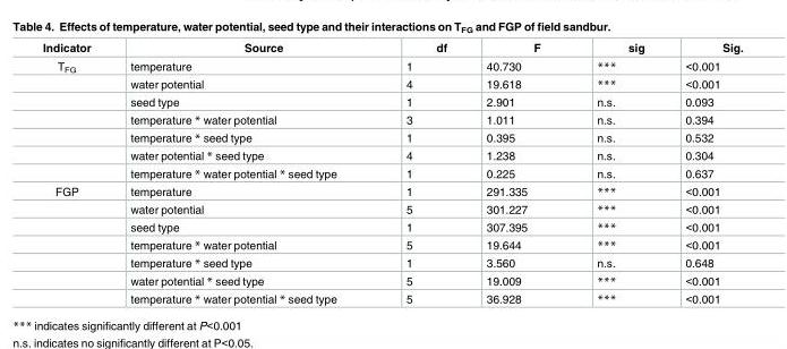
<table><thead><tr><td>Indicator</td><td>Source</td><td>df</td><td>F</td><td>sig</td><td>Sig.</td></tr></thead><tbody><tr><td rowspan="7">T<sub>FG</sub></td><td>temperature</td><td>1</td><td>40.730</td><td>***</td><td>&lt;0.001</td></tr><tr><td>water potential</td><td>4</td><td>19.618</td><td>***</td><td>&lt;0.001</td></tr><tr><td>seed type</td><td>1</td><td>2.901</td><td>n.s.</td><td>0.093</td></tr><tr><td>temperature * water potential</td><td>3</td><td>1.011</td><td>n.s.</td><td>0.394</td></tr><tr><td>temperature * seed type</td><td>1</td><td>0.395</td><td>n.s.</td><td>0.532</td></tr><tr><td>water potential * seed type</td><td>4</td><td>1.238</td><td>n.s.</td><td>0.304</td></tr><tr><td>temperature * water potential * seed type</td><td>1</td><td>0.225</td><td>n.s.</td><td>0.637</td></tr><tr><td rowspan="7">FGP</td><td>temperature</td><td>1</td><td>291.335</td><td>***</td><td>&lt;0.001</td></tr><tr><td>water potential</td><td>5</td><td>301.227</td><td>***</td><td>&lt;0.001</td></tr><tr><td>seed type</td><td>1</td><td>307.395</td><td>***</td><td>&lt;0.001</td></tr><tr><td>temperature * water potential</td><td>5</td><td>19.644</td><td>***</td><td>&lt;0.001</td></tr><tr><td>temperature * seed type</td><td>1</td><td>3.560</td><td>n.s.</td><td>0.648</td></tr><tr><td>water potential * seed type</td><td>5</td><td>19.009</td><td>***</td><td>&lt;0.001</td></tr><tr><td>temperature * water potential * seed type</td><td>5</td><td>36.928</td><td>***</td><td>&lt;0.001</td></tr></tbody></table>